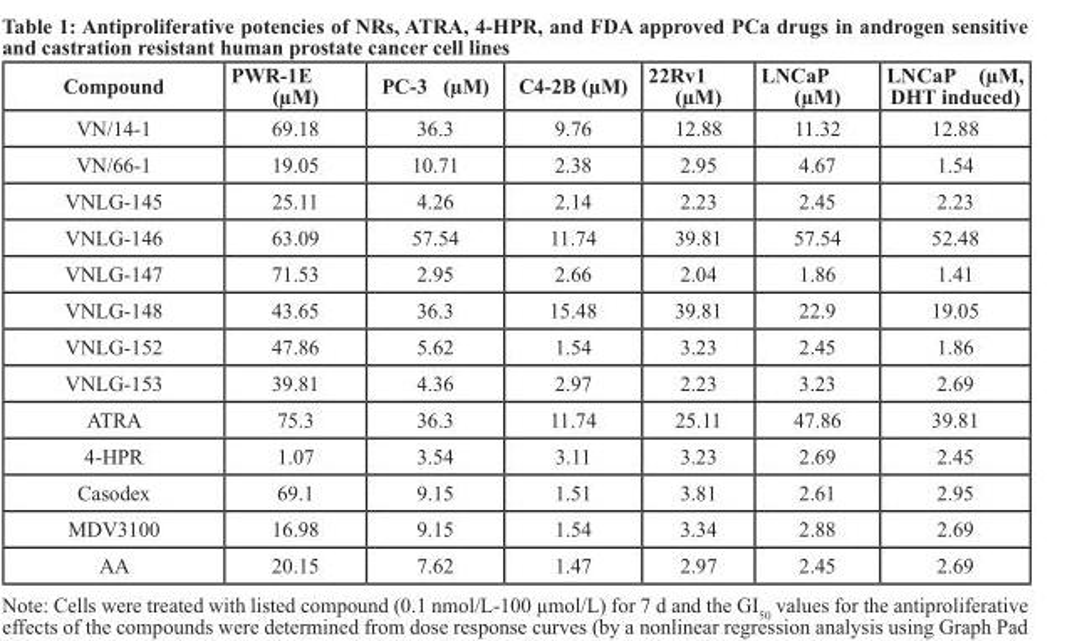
<table><thead><tr><td>Compound</td><td>PWR-1E (µM)</td><td>PC-3 (µM)</td><td>C4-2B (µM)</td><td>22Rv1 (µM)</td><td>LNCaP (µM)</td><td>LNCaP (µM, DHT induced)</td></tr></thead><tbody><tr><td>VN/14-1</td><td>69.18</td><td>36.3</td><td>9.76</td><td>12.88</td><td>11.32</td><td>12.88</td></tr><tr><td>VN/66-1</td><td>19.05</td><td>10.71</td><td>2.38</td><td>2.95</td><td>4.67</td><td>1.54</td></tr><tr><td>VNLG-145</td><td>25.11</td><td>4.26</td><td>2.14</td><td>2.23</td><td>2.45</td><td>2.23</td></tr><tr><td>VNLG-146</td><td>63.09</td><td>57.54</td><td>11.74</td><td>39.81</td><td>57.54</td><td>52.48</td></tr><tr><td>VNLG-147</td><td>71.53</td><td>2.95</td><td>2.66</td><td>2.04</td><td>1.86</td><td>1.41</td></tr><tr><td>VNLG-148</td><td>43.65</td><td>36.3</td><td>15.48</td><td>39.81</td><td>22.9</td><td>19.05</td></tr><tr><td>VNLG-152</td><td>47.86</td><td>5.62</td><td>1.54</td><td>3.23</td><td>2.45</td><td>1.86</td></tr><tr><td>VNLG-153</td><td>39.81</td><td>4.36</td><td>2.97</td><td>2.23</td><td>3.23</td><td>2.69</td></tr><tr><td>ATRA</td><td>75.3</td><td>36.3</td><td>11.74</td><td>25.11</td><td>47.86</td><td>39.81</td></tr><tr><td>4-HPR</td><td>1.07</td><td>3.54</td><td>3.11</td><td>3.23</td><td>2.69</td><td>2.45</td></tr><tr><td>Casodex</td><td>69.1</td><td>9.15</td><td>1.51</td><td>3.81</td><td>2.61</td><td>2.95</td></tr><tr><td>MDV3100</td><td>16.98</td><td>9.15</td><td>1.54</td><td>3.34</td><td>2.88</td><td>2.69</td></tr><tr><td>AA</td><td>20.15</td><td>7.62</td><td>1.47</td><td>2.97</td><td>2.45</td><td>2.69</td></tr></tbody></table>